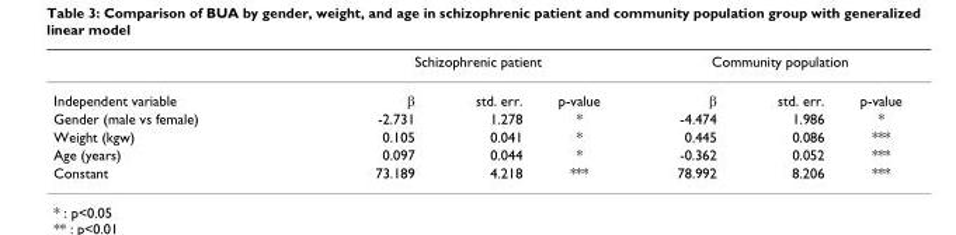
<table><thead><tr><td rowspan="2">Independent variable</td><td colspan="3">Schizophrenic patient</td><td colspan="3">Community population</td></tr><tr><td>β</td><td>std. err.</td><td>p-value</td><td>β</td><td>std. err.</td><td>p-value</td></tr></thead><tbody><tr><td>Gender (male vs female)</td><td>-2.731</td><td>1.278</td><td>*</td><td>-4.474</td><td>1.986</td><td>*</td></tr><tr><td>Weight (kgw)</td><td>0.105</td><td>0.041</td><td>*</td><td>0.445</td><td>0.086</td><td>***</td></tr><tr><td>Age (years)</td><td>0.097</td><td>0.044</td><td>*</td><td>-0.362</td><td>0.052</td><td>***</td></tr><tr><td>Constant</td><td>73.189</td><td>4.218</td><td>***</td><td>78.992</td><td>8.206</td><td>***</td></tr></tbody></table>